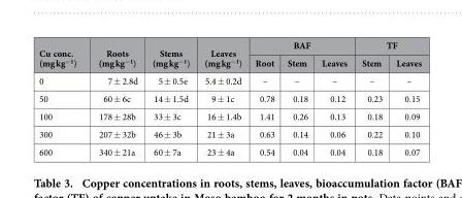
<table><thead><tr><td rowspan="2">Cu conc. (mg kg<sup>−1</sup>)</td><td rowspan="2">Roots (mg kg<sup>−1</sup>)</td><td rowspan="2">Stems (mg kg<sup>−1</sup>)</td><td rowspan="2">Leaves (mg kg<sup>−1</sup>)</td><td colspan="3">BAF</td><td colspan="2">TF</td></tr><tr><td>Root</td><td>Stem</td><td>Leaves</td><td>Stem</td><td>Leaves</td></tr></thead><tbody><tr><td>0</td><td>7 ± 2.8d</td><td>5 ± 0.5e</td><td>5.4 ± 0.2d</td><td>–</td><td>–</td><td>–</td><td>–</td><td>–</td></tr><tr><td>50</td><td>60 ± 6c</td><td>14 ± 1.5d</td><td>9 ± 1c</td><td>0.78</td><td>0.18</td><td>0.12</td><td>0.23</td><td>0.15</td></tr><tr><td>100</td><td>178 ± 28b</td><td>33 ± 3c</td><td>16 ± 1.4b</td><td>1.41</td><td>0.26</td><td>0.13</td><td>0.18</td><td>0.09</td></tr><tr><td>300</td><td>207 ± 32b</td><td>46 ± 3b</td><td>21 ± 3a</td><td>0.63</td><td>0.14</td><td>0.06</td><td>0.22</td><td>0.10</td></tr><tr><td>600</td><td>340 ± 21a</td><td>60 ± 7a</td><td>23 ± 4a</td><td>0.54</td><td>0.04</td><td>0.04</td><td>0.18</td><td>0.07</td></tr></tbody></table>